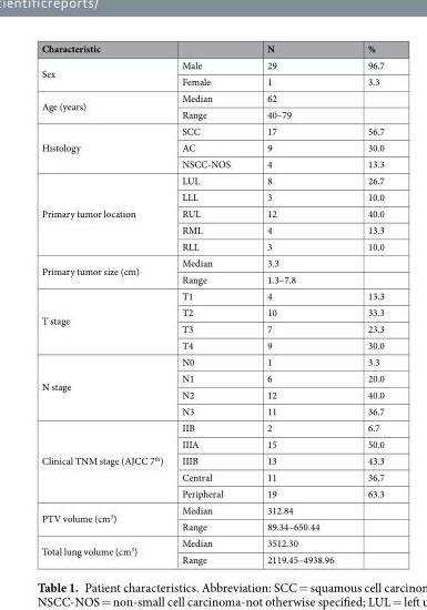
<table><thead><tr><td>Characteristic</td><td></td><td>N</td><td>%</td></tr></thead><tbody><tr><td rowspan="2">Sex</td><td>Male</td><td>29</td><td>96.7</td></tr><tr><td>Female</td><td>1</td><td>3.3</td></tr><tr><td rowspan="2">Age (years)</td><td>Median</td><td>62</td><td></td></tr><tr><td>Range</td><td>40–79</td><td></td></tr><tr><td rowspan="3">Histology</td><td>SCC</td><td>17</td><td>56.7</td></tr><tr><td>AC</td><td>9</td><td>30.0</td></tr><tr><td>NSCC-NOS</td><td>4</td><td>13.3</td></tr><tr><td rowspan="5">Primary tumor location</td><td>LUL</td><td>8</td><td>26.7</td></tr><tr><td>LLL</td><td>3</td><td>10.0</td></tr><tr><td>RUL</td><td>12</td><td>40.0</td></tr><tr><td>RML</td><td>4</td><td>13.3</td></tr><tr><td>RLL</td><td>3</td><td>10.0</td></tr><tr><td rowspan="2">Primary tumor size (cm)</td><td>Median</td><td>3.3</td><td></td></tr><tr><td>Range</td><td>1.3–7.8</td><td></td></tr><tr><td rowspan="4">T stage</td><td>T1</td><td>4</td><td>13.3</td></tr><tr><td>T2</td><td>10</td><td>33.3</td></tr><tr><td>T3</td><td>7</td><td>23.3</td></tr><tr><td>T4</td><td>9</td><td>30.0</td></tr><tr><td rowspan="4">N stage</td><td>N0</td><td>1</td><td>3.3</td></tr><tr><td>N1</td><td>6</td><td>20.0</td></tr><tr><td>N2</td><td>12</td><td>40.0</td></tr><tr><td>N3</td><td>11</td><td>36.7</td></tr><tr><td rowspan="5">Clinical TNM stage (AJCC 7<sup>th</sup>)</td><td>IIB</td><td>2</td><td>6.7</td></tr><tr><td>IIIA</td><td>15</td><td>50.0</td></tr><tr><td>IIIB</td><td>13</td><td>43.3</td></tr><tr><td>Central</td><td>11</td><td>36.7</td></tr><tr><td>Peripheral</td><td>19</td><td>63.3</td></tr><tr><td rowspan="2">PTV volume (cm<sup>3</sup>)</td><td>Median</td><td>312.84</td><td></td></tr><tr><td>Range</td><td>89.34–650.44</td><td></td></tr><tr><td rowspan="2">Total lung volume (cm<sup>3</sup>)</td><td>Median</td><td>3512.30</td><td></td></tr><tr><td>Range</td><td>2119.45–4938.96</td><td></td></tr></tbody></table>